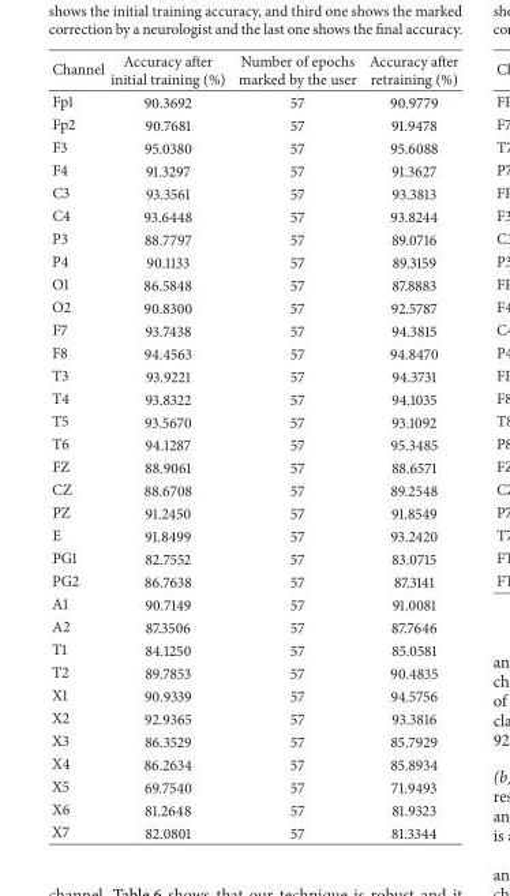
<table><thead><tr><td>Channel</td><td>Accuracy after initial training (%)</td><td>Number of epochs marked by the user</td><td>Accuracy after retraining (%)</td></tr></thead><tbody><tr><td>Fp1</td><td>90.3692</td><td>57</td><td>90.9779</td></tr><tr><td>Fp2</td><td>90.7681</td><td>57</td><td>91.9478</td></tr><tr><td>F3</td><td>95.0380</td><td>57</td><td>95.6088</td></tr><tr><td>F4</td><td>91.3297</td><td>57</td><td>91.3627</td></tr><tr><td>C3</td><td>93.3561</td><td>57</td><td>93.3813</td></tr><tr><td>C4</td><td>93.6448</td><td>57</td><td>93.8244</td></tr><tr><td>P3</td><td>88.7797</td><td>57</td><td>89.0716</td></tr><tr><td>P4</td><td>90.1133</td><td>57</td><td>89.3159</td></tr><tr><td>O1</td><td>86.5848</td><td>57</td><td>87.8883</td></tr><tr><td>O2</td><td>90.8300</td><td>57</td><td>92.5787</td></tr><tr><td>F7</td><td>93.7438</td><td>57</td><td>94.3815</td></tr><tr><td>F8</td><td>94.4563</td><td>57</td><td>94.8470</td></tr><tr><td>T3</td><td>93.9221</td><td>57</td><td>94.3731</td></tr><tr><td>T4</td><td>93.8322</td><td>57</td><td>94.1035</td></tr><tr><td>T5</td><td>93.5670</td><td>57</td><td>93.1092</td></tr><tr><td>T6</td><td>94.1287</td><td>57</td><td>95.3485</td></tr><tr><td>FZ</td><td>88.9061</td><td>57</td><td>88.6571</td></tr><tr><td>CZ</td><td>88.6708</td><td>57</td><td>89.2548</td></tr><tr><td>PZ</td><td>91.2450</td><td>57</td><td>91.8549</td></tr><tr><td>E</td><td>91.8499</td><td>57</td><td>93.2420</td></tr><tr><td>PG1</td><td>82.7552</td><td>57</td><td>83.0715</td></tr><tr><td>PG2</td><td>86.7638</td><td>57</td><td>87.3141</td></tr><tr><td>A1</td><td>90.7149</td><td>57</td><td>91.0081</td></tr><tr><td>A2</td><td>87.3506</td><td>57</td><td>87.7646</td></tr><tr><td>T1</td><td>84.1250</td><td>57</td><td>85.0581</td></tr><tr><td>T2</td><td>89.7853</td><td>57</td><td>90.4835</td></tr><tr><td>X1</td><td>90.9339</td><td>57</td><td>94.5756</td></tr><tr><td>X2</td><td>92.9365</td><td>57</td><td>93.3816</td></tr><tr><td>X3</td><td>86.3529</td><td>57</td><td>85.7929</td></tr><tr><td>X4</td><td>86.2634</td><td>57</td><td>85.8934</td></tr><tr><td>X5</td><td>69.7540</td><td>57</td><td>71.9493</td></tr><tr><td>X6</td><td>81.2648</td><td>57</td><td>81.9323</td></tr><tr><td>X7</td><td>82.0801</td><td>57</td><td>81.3344</td></tr></tbody></table>